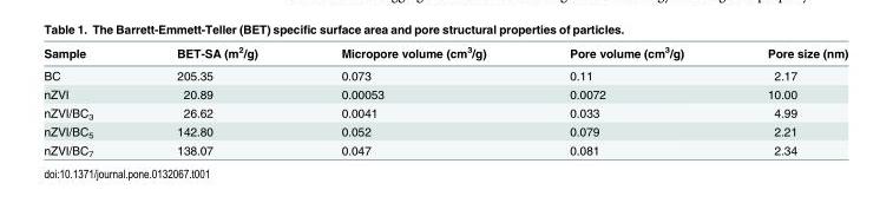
<table><thead><tr><td>Sample</td><td>BET-SA (m<sup>2</sup>/g)</td><td>Micropore volume (cm<sup>3</sup>/g)</td><td>Pore volume (cm<sup>3</sup>/g)</td><td>Pore size (nm)</td></tr></thead><tbody><tr><td>BC</td><td>205.35</td><td>0.073</td><td>0.11</td><td>2.17</td></tr><tr><td>nZVI</td><td>20.89</td><td>0.00053</td><td>0.0072</td><td>10.00</td></tr><tr><td>nZVI/BC<sub>3</sub></td><td>26.62</td><td>0.0041</td><td>0.033</td><td>4.99</td></tr><tr><td>nZVI/BC<sub>5</sub></td><td>142.80</td><td>0.052</td><td>0.079</td><td>2.21</td></tr><tr><td>nZVI/BC<sub>7</sub></td><td>138.07</td><td>0.047</td><td>0.081</td><td>2.34</td></tr></tbody></table>